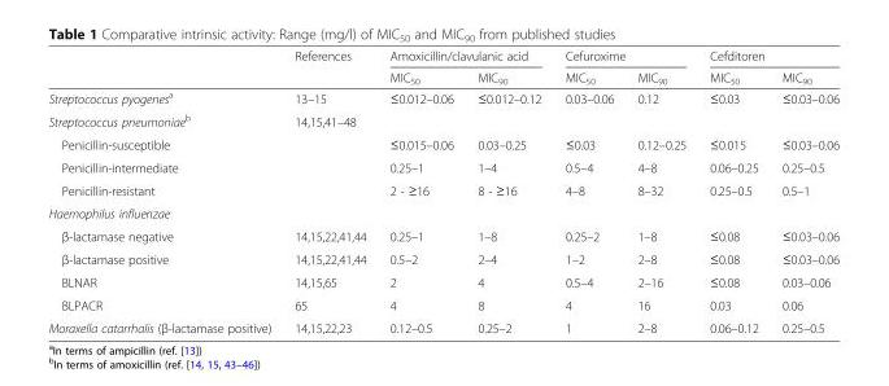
<table><thead><tr><td rowspan="2"></td><td rowspan="2">References</td><td colspan="2">Amoxicillin/clavulanic acid</td><td colspan="2">Cefuroxime</td><td colspan="2">Cefditoren</td></tr><tr><td>MIC<sub>50</sub></td><td>MIC<sub>90</sub></td><td>MIC<sub>50</sub></td><td>MIC<sub>90</sub></td><td>MIC<sub>50</sub></td><td>MIC<sub>90</sub></td></tr></thead><tbody><tr><td>Streptococcus pyogenes<sup>a</sup></td><td>13–15</td><td>≤0.012–0.06</td><td>≤0.012–0.12</td><td>0.03–0.06</td><td>0.12</td><td>≤0.03</td><td>≤0.03–0.06</td></tr><tr><td>Streptococcus pneumoniae<sup>b</sup></td><td>14,15,41–48</td><td></td><td></td><td></td><td></td><td></td><td></td></tr><tr><td>Penicillin-susceptible</td><td></td><td>≤0.015–0.06</td><td>0.03–0.25</td><td>≤0.03</td><td>0.12–0.25</td><td>≤0.015</td><td>≤0.03–0.06</td></tr><tr><td>Penicillin-intermediate</td><td></td><td>0.25–1</td><td>1–4</td><td>0.5–4</td><td>4–8</td><td>0.06–0.25</td><td>0.25–0.5</td></tr><tr><td>Penicillin-resistant</td><td></td><td>2 - ≥16</td><td>8 - ≥16</td><td>4–8</td><td>8–32</td><td>0.25–0.5</td><td>0.5–1</td></tr><tr><td colspan="8">Haemophilus influenzae</td></tr><tr><td>β-lactamase negative</td><td>14,15,22,41,44</td><td>0.25–1</td><td>1–8</td><td>0.25–2</td><td>1–8</td><td>≤0.08</td><td>≤0.03–0.06</td></tr><tr><td>β-lactamase positive</td><td>14,15,22,41,44</td><td>0.5–2</td><td>2–4</td><td>1–2</td><td>2–8</td><td>≤0.08</td><td>≤0.03–0.06</td></tr><tr><td>BLNAR</td><td>14,15,65</td><td>2</td><td>4</td><td>0.5–4</td><td>2–16</td><td>≤0.08</td><td>0.03–0.06</td></tr><tr><td>BLPACR</td><td>65</td><td>4</td><td>8</td><td>4</td><td>16</td><td>0.03</td><td>0.06</td></tr><tr><td>Moraxella catarrhalis (β-lactamase positive)</td><td>14,15,22,23</td><td>0.12–0.5</td><td>0.25–2</td><td>1</td><td>2–8</td><td>0.06–0.12</td><td>0.25–0.5</td></tr></tbody></table>